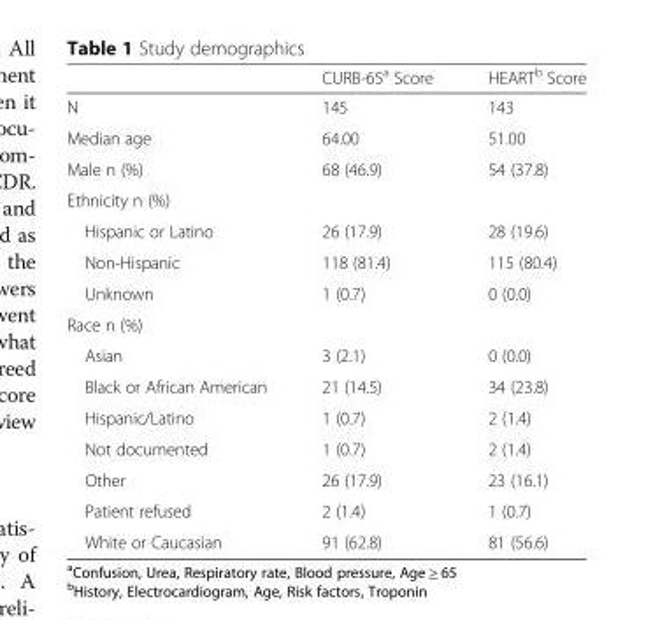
<table><thead><tr><td></td><td>CURB-65<sup>a</sup> Score</td><td>HEART<sup>b</sup> Score</td></tr></thead><tbody><tr><td>N</td><td>145</td><td>143</td></tr><tr><td>Median age</td><td>64.00</td><td>51.00</td></tr><tr><td>Male n (%)</td><td>68 (46.9)</td><td>54 (37.8)</td></tr><tr><td colspan="3">Ethnicity n (%)</td></tr><tr><td>Hispanic or Latino</td><td>26 (17.9)</td><td>28 (19.6)</td></tr><tr><td>Non-Hispanic</td><td>118 (81.4)</td><td>115 (80.4)</td></tr><tr><td>Unknown</td><td>1 (0.7)</td><td>0 (0.0)</td></tr><tr><td colspan="3">Race n (%)</td></tr><tr><td>Asian</td><td>3 (2.1)</td><td>0 (0.0)</td></tr><tr><td>Black or African American</td><td>21 (14.5)</td><td>34 (23.8)</td></tr><tr><td>Hispanic/Latino</td><td>1 (0.7)</td><td>2 (1.4)</td></tr><tr><td>Not documented</td><td>1 (0.7)</td><td>2 (1.4)</td></tr><tr><td>Other</td><td>26 (17.9)</td><td>23 (16.1)</td></tr><tr><td>Patient refused</td><td>2 (1.4)</td><td>1 (0.7)</td></tr><tr><td>White or Caucasian</td><td>91 (62.8)</td><td>81 (56.6)</td></tr></tbody></table>